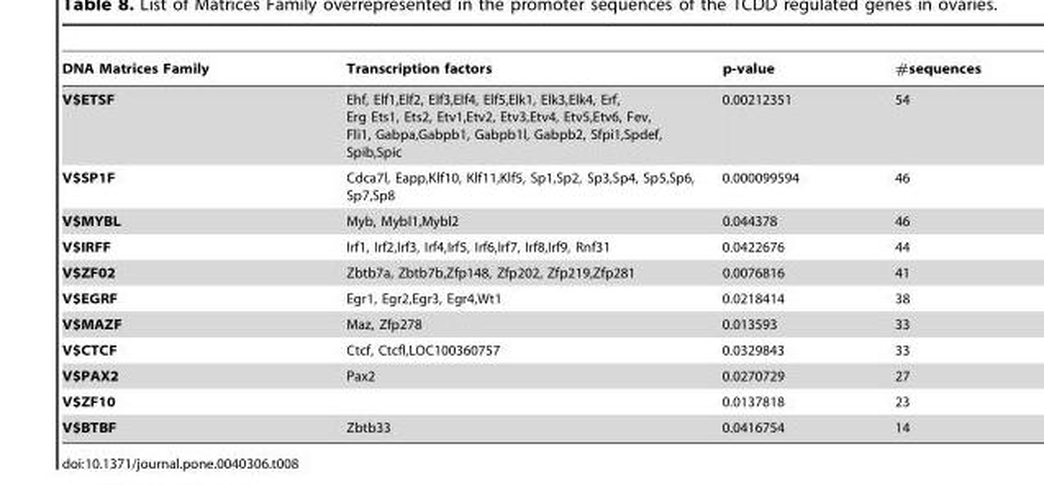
<table><thead><tr><td>DNA Matrices Family</td><td>Transcription factors</td><td>p-value</td><td>#sequences</td></tr></thead><tbody><tr><td>V$ETSF</td><td>Ehf, Elf1,Elf2, Elf3,Elf4, Elf5,Elk1, Elk3,Elk4, Erf, Erg Ets1, Ets2, Etv1,Etv2, Etv3,Etv4, Etv5,Etv6, Fev, Fli1, Gabpa,Gabpb1, Gabpb1l, Gabpb2, Sfpi1,Spdef, Spib,Spic</td><td>0.00212351</td><td>54</td></tr><tr><td>V$SP1F</td><td>Cdca7l, Eapp,Klf10, Klf11,Klf5, Sp1,Sp2, Sp3,Sp4, Sp5,Sp6, Sp7,Sp8</td><td>0.000099594</td><td>46</td></tr><tr><td>V$MYBL</td><td>Myb, Mybl1,Mybl2</td><td>0.044378</td><td>46</td></tr><tr><td>V$IRFF</td><td>Irf1, Irf2,Irf3, Irf4,Irf5, Irf6,Irf7, Irf8,Irf9, Rnf31</td><td>0.0422676</td><td>44</td></tr><tr><td>V$ZF02</td><td>Zbtb7a, Zbtb7b,Zfp148, Zfp202, Zfp219,Zfp281</td><td>0.0076816</td><td>41</td></tr><tr><td>V$EGRF</td><td>Egr1, Egr2,Egr3, Egr4,Wt1</td><td>0.0218414</td><td>38</td></tr><tr><td>V$MAZF</td><td>Maz, Zfp278</td><td>0.013593</td><td>33</td></tr><tr><td>V$CTCF</td><td>Ctcf, Ctcfl,LOC100360757</td><td>0.0329843</td><td>33</td></tr><tr><td>V$PAX2</td><td>Pax2</td><td>0.0270729</td><td>27</td></tr><tr><td>V$ZF10</td><td></td><td>0.0137818</td><td>23</td></tr><tr><td>V$BTBF</td><td>Zbtb33</td><td>0.0416754</td><td>14</td></tr></tbody></table>